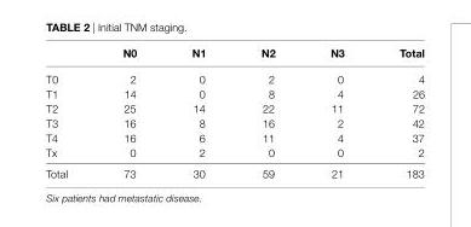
<table><thead><tr><td></td><td>n0</td><td>n1</td><td>n2</td><td>n3</td><td>Total</td></tr></thead><tbody><tr><td>T0</td><td>2</td><td>0</td><td>2</td><td>0</td><td>4</td></tr><tr><td>T1</td><td>14</td><td>0</td><td>8</td><td>4</td><td>26</td></tr><tr><td>T2</td><td>25</td><td>14</td><td>22</td><td>11</td><td>72</td></tr><tr><td>T3</td><td>16</td><td>8</td><td>16</td><td>2</td><td>42</td></tr><tr><td>T4</td><td>16</td><td>6</td><td>11</td><td>4</td><td>37</td></tr><tr><td>Tx</td><td>0</td><td>2</td><td>0</td><td>0</td><td>2</td></tr><tr><td>Total</td><td>73</td><td>30</td><td>59</td><td>21</td><td>183</td></tr></tbody></table>